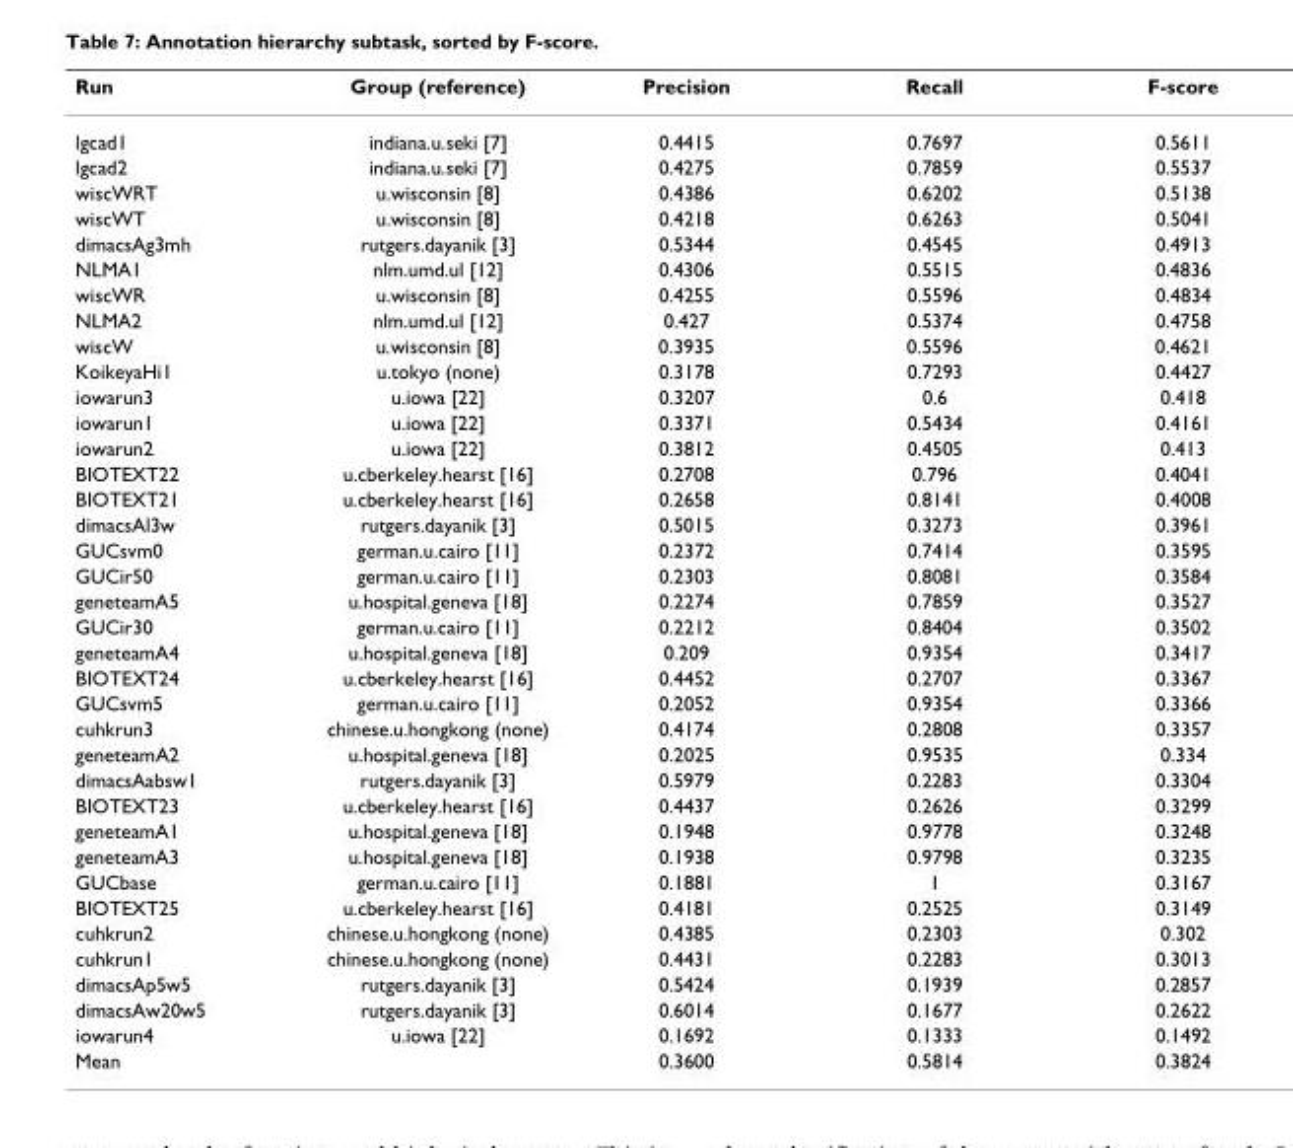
<table><thead><tr><td>Run</td><td>Group (reference)</td><td>Precision</td><td>Recall</td><td>F-score</td></tr></thead><tbody><tr><td>lgcad1</td><td>indiana.u.seki [7]</td><td>0.4415</td><td>0.7697</td><td>0.5611</td></tr><tr><td>lgcad2</td><td>indiana.u.seki [7]</td><td>0.4275</td><td>0.7859</td><td>0.5537</td></tr><tr><td>wiscWRT</td><td>u.wisconsin [8]</td><td>0.4386</td><td>0.6202</td><td>0.5138</td></tr><tr><td>wiscWT</td><td>u.wisconsin [8]</td><td>0.4218</td><td>0.6263</td><td>0.5041</td></tr><tr><td>dimacsAg3mh</td><td>rutgers.dayanik [3]</td><td>0.5344</td><td>0.4545</td><td>0.4913</td></tr><tr><td>NLMA1</td><td>nlm.umd.ul [12]</td><td>0.4306</td><td>0.5515</td><td>0.4836</td></tr><tr><td>wiscWR</td><td>u.wisconsin [8]</td><td>0.4255</td><td>0.5596</td><td>0.4834</td></tr><tr><td>NLMA2</td><td>nlm.umd.ul [12]</td><td>0.427</td><td>0.5374</td><td>0.4758</td></tr><tr><td>wiscW</td><td>u.wisconsin [8]</td><td>0.3935</td><td>0.5596</td><td>0.4621</td></tr><tr><td>KoikeyaHi1</td><td>u.tokyo (none)</td><td>0.3178</td><td>0.7293</td><td>0.4427</td></tr><tr><td>iowarun3</td><td>u.iowa [22]</td><td>0.3207</td><td>0.6</td><td>0.418</td></tr><tr><td>iowarun1</td><td>u.iowa [22]</td><td>0.3371</td><td>0.5434</td><td>0.4161</td></tr><tr><td>iowarun2</td><td>u.iowa [22]</td><td>0.3812</td><td>0.4505</td><td>0.413</td></tr><tr><td>BIOTEXT22</td><td>u.cberkeley.hearst [16]</td><td>0.2708</td><td>0.796</td><td>0.4041</td></tr><tr><td>BIOTEXT21</td><td>u.cberkeley.hearst [16]</td><td>0.2658</td><td>0.8141</td><td>0.4008</td></tr><tr><td>dimacsAl3w</td><td>rutgers.dayanik [3]</td><td>0.5015</td><td>0.3273</td><td>0.3961</td></tr><tr><td>GUCsvm0</td><td>german.u.cairo [11]</td><td>0.2372</td><td>0.7414</td><td>0.3595</td></tr><tr><td>GUCir50</td><td>german.u.cairo [11]</td><td>0.2303</td><td>0.8081</td><td>0.3584</td></tr><tr><td>geneteamA5</td><td>u.hospital.geneva [18]</td><td>0.2274</td><td>0.7859</td><td>0.3527</td></tr><tr><td>GUCir30</td><td>german.u.cairo [11]</td><td>0.2212</td><td>0.8404</td><td>0.3502</td></tr><tr><td>geneteamA4</td><td>u.hospital.geneva [18]</td><td>0.209</td><td>0.9354</td><td>0.3417</td></tr><tr><td>BIOTEXT24</td><td>u.cberkeley.hearst [16]</td><td>0.4452</td><td>0.2707</td><td>0.3367</td></tr><tr><td>GUCsvm5</td><td>german.u.cairo [11]</td><td>0.2052</td><td>0.9354</td><td>0.3366</td></tr><tr><td>cuhkrun3</td><td>chinese.u.hongkong (none)</td><td>0.4174</td><td>0.2808</td><td>0.3357</td></tr><tr><td>geneteamA2</td><td>u.hospital.geneva [18]</td><td>0.2025</td><td>0.9535</td><td>0.334</td></tr><tr><td>dimacsAabsw1</td><td>rutgers.dayanik [3]</td><td>0.5979</td><td>0.2283</td><td>0.3304</td></tr><tr><td>BIOTEXT23</td><td>u.cberkeley.hearst [16]</td><td>0.4437</td><td>0.2626</td><td>0.3299</td></tr><tr><td>geneteamA1</td><td>u.hospital.geneva [18]</td><td>0.1948</td><td>0.9778</td><td>0.3248</td></tr><tr><td>geneteamA3</td><td>u.hospital.geneva [18]</td><td>0.1938</td><td>0.9798</td><td>0.3235</td></tr><tr><td>GUCbase</td><td>german.u.cairo [11]</td><td>0.1881</td><td>1</td><td>0.3167</td></tr><tr><td>BIOTEXT25</td><td>u.cberkeley.hearst [16]</td><td>0.4181</td><td>0.2525</td><td>0.3149</td></tr><tr><td>cuhkrun2</td><td>chinese.u.hongkong (none)</td><td>0.4385</td><td>0.2303</td><td>0.302</td></tr><tr><td>cuhkrun1</td><td>chinese.u.hongkong (none)</td><td>0.4431</td><td>0.2283</td><td>0.3013</td></tr><tr><td>dimacsAp5w5</td><td>rutgers.dayanik [3]</td><td>0.5424</td><td>0.1939</td><td>0.2857</td></tr><tr><td>dimacsAw20w5</td><td>rutgers.dayanik [3]</td><td>0.6014</td><td>0.1677</td><td>0.2622</td></tr><tr><td>iowarun4</td><td>u.iowa [22]</td><td>0.1692</td><td>0.1333</td><td>0.1492</td></tr><tr><td>Mean</td><td></td><td>0.3600</td><td>0.5814</td><td>0.3824</td></tr></tbody></table>